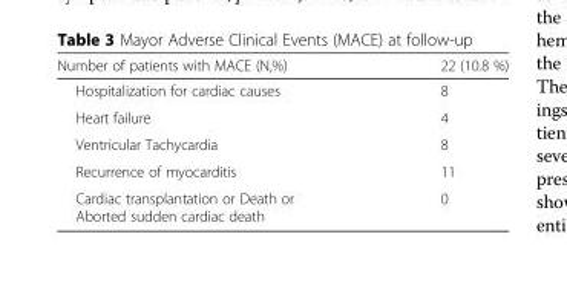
<table><thead><tr><td>Number of patients with MACE (N,%)</td><td>22 (10.8 %)</td></tr></thead><tbody><tr><td>Hospitalization for cardiac causes</td><td>8</td></tr><tr><td>Heart failure</td><td>4</td></tr><tr><td>Ventricular Tachycardia</td><td>8</td></tr><tr><td>Recurrence of myocarditis</td><td>11</td></tr><tr><td>Cardiac transplantation or Death or Aborted sudden cardiac death</td><td>0</td></tr></tbody></table>